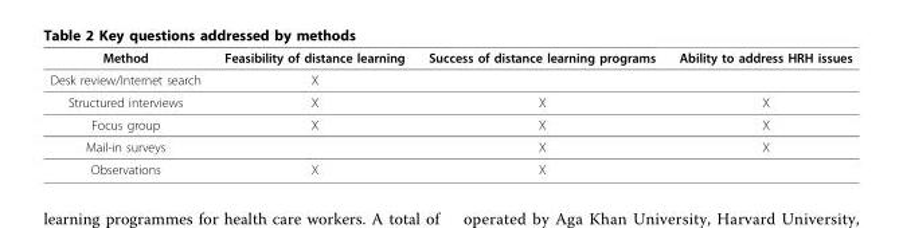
<table><thead><tr><td>Method</td><td>Feasibility of distance learning</td><td>Success of distance learning programs</td><td>Ability to address HRH issues</td></tr></thead><tbody><tr><td>Desk review/Internet search</td><td>X</td><td></td><td></td></tr><tr><td>Structured interviews</td><td>X</td><td>X</td><td>X</td></tr><tr><td>Focus group</td><td>X</td><td>X</td><td>X</td></tr><tr><td>Mail-in surveys</td><td></td><td>X</td><td>X</td></tr><tr><td>Observations</td><td>X</td><td>X</td><td></td></tr></tbody></table>